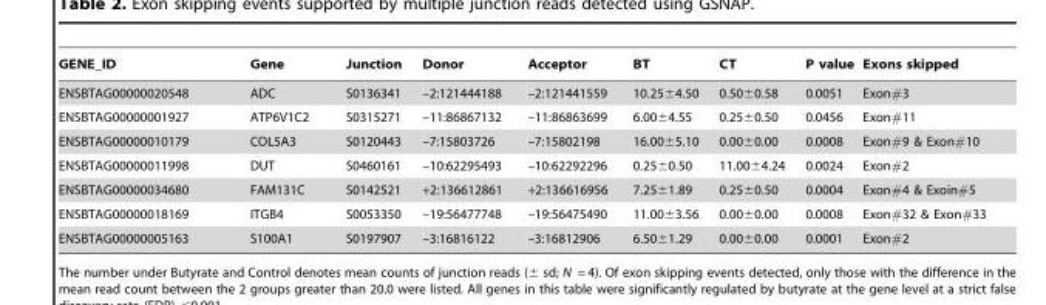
<table><thead><tr><td>GENE_ID</td><td>Gene</td><td>Junction</td><td>Donor</td><td>Acceptor</td><td>BT</td><td>CT</td><td>P value</td><td>Exons skipped</td></tr></thead><tbody><tr><td>ENSBTAG00000020548</td><td>ADC</td><td>S0136341</td><td>–2:121444188</td><td>–2:121441559</td><td>10.25±4.50</td><td>0.50±0.58</td><td>0.0051</td><td>Exon#3</td></tr><tr><td>ENSBTAG00000001927</td><td>ATP6V1C2</td><td>S0315271</td><td>–11:86867132</td><td>–11:86863699</td><td>6.00±4.55</td><td>0.25±0.50</td><td>0.0456</td><td>Exon#11</td></tr><tr><td>ENSBTAG00000010179</td><td>COL5A3</td><td>S0120443</td><td>–7:15803726</td><td>–7:15802198</td><td>16.00±5.10</td><td>0.00±0.00</td><td>0.0008</td><td>Exon#9 &amp; Exon#10</td></tr><tr><td>ENSBTAG00000011998</td><td>DUT</td><td>S0460161</td><td>–10:62295493</td><td>–10:62292296</td><td>0.25±0.50</td><td>11.00±4.24</td><td>0.0024</td><td>Exon#2</td></tr><tr><td>ENSBTAG00000034680</td><td>FAM131C</td><td>S0142521</td><td>+2:136612861</td><td>+2:136616956</td><td>7.25±1.89</td><td>0.25±0.50</td><td>0.0004</td><td>Exon#4 &amp; Exoin#5</td></tr><tr><td>ENSBTAG00000018169</td><td>ITGB4</td><td>S0053350</td><td>–19:56477748</td><td>–19:56475490</td><td>11.00±3.56</td><td>0.00±0.00</td><td>0.0008</td><td>Exon#32 &amp; Exon#33</td></tr><tr><td>ENSBTAG00000005163</td><td>S100A1</td><td>S0197907</td><td>–3:16816122</td><td>–3:16812906</td><td>6.50±1.29</td><td>0.00±0.00</td><td>0.0001</td><td>Exon#2</td></tr></tbody></table>